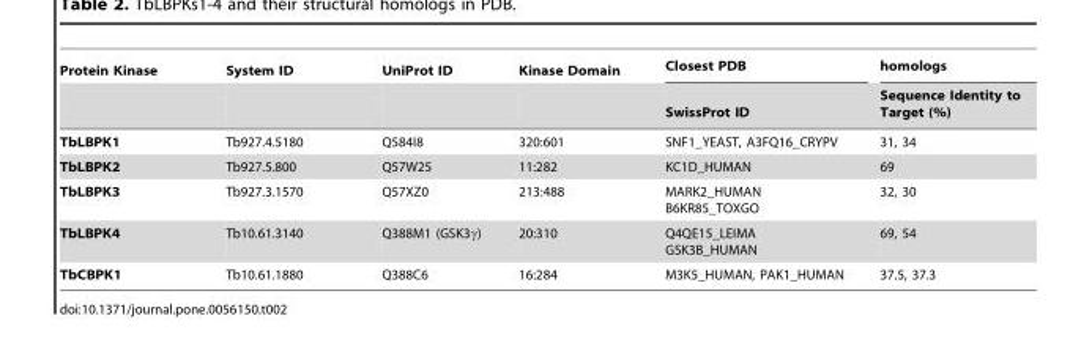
<table><thead><tr><td rowspan="2">Protein Kinase</td><td rowspan="2">System ID</td><td rowspan="2">UniProt ID</td><td rowspan="2">Kinase Domain</td><td rowspan="2">Closest PDB SwissProt ID</td><td rowspan="2">homologs Sequence Identity to Target (%)</td></tr><tr></tr></thead><tbody><tr><td>TbLBPK1</td><td>Tb927.4.5180</td><td>Q584I8</td><td>320:601</td><td>SNF1_YEAST, A3FQ16_CRYPV</td><td>31, 34</td></tr><tr><td>TbLBPK2</td><td>Tb927.5.800</td><td>Q57W25</td><td>11:282</td><td>KC1D_HUMAN</td><td>69</td></tr><tr><td>TbLBPK3</td><td>Tb927.3.1570</td><td>Q57XZ0</td><td>213:488</td><td>MARK2_HUMAN B6KR85_TOXGO</td><td>32, 30</td></tr><tr><td>TbLBPK4</td><td>Tb10.61.3140</td><td>Q388M1 (GSK3γ)</td><td>20:310</td><td>Q4QE15_LEIMA GSK3B_HUMAN</td><td>69, 54</td></tr><tr><td>TbCBPK1</td><td>Tb10.61.1880</td><td>Q388C6</td><td>16:284</td><td>M3K5_HUMAN, PAK1_HUMAN</td><td>37.5, 37.3</td></tr></tbody></table>